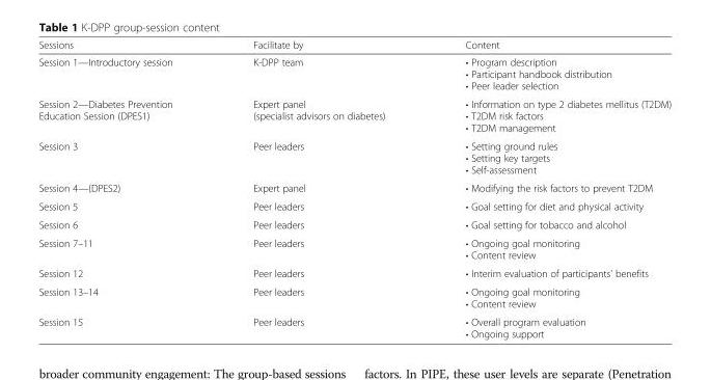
<table><thead><tr><td>Sessions</td><td>Facilitate by</td><td>Content</td></tr></thead><tbody><tr><td>Session 1—Introductory session</td><td>K-DPP team</td><td>• Program description • Participant handbook distribution • Peer leader selection</td></tr><tr><td>Session 2—Diabetes Prevention Education Session (DPES1)</td><td>Expert panel (specialist advisors on diabetes)</td><td>• Information on type 2 diabetes mellitus (T2DM) • T2DM risk factors • T2DM management</td></tr><tr><td>Session 3</td><td>Peer leaders</td><td>• Setting ground rules • Setting key targets • Self-assessment</td></tr><tr><td>Session 4—(DPES2)</td><td>Expert panel</td><td>• Modifying the risk factors to prevent T2DM</td></tr><tr><td>Session 5</td><td>Peer leaders</td><td>• Goal setting for diet and physical activity</td></tr><tr><td>Session 6</td><td>Peer leaders</td><td>• Goal setting for tobacco and alcohol</td></tr><tr><td>Session 7–11</td><td>Peer leaders</td><td>• Ongoing goal monitoring • Content review</td></tr><tr><td>Session 12</td><td>Peer leaders</td><td>• Interim evaluation of participants’ benefits</td></tr><tr><td>Session 13–14</td><td>Peer leaders</td><td>• Ongoing goal monitoring • Content review</td></tr><tr><td>Session 15</td><td>Peer leaders</td><td>• Overall program evaluation • Ongoing support</td></tr></tbody></table>